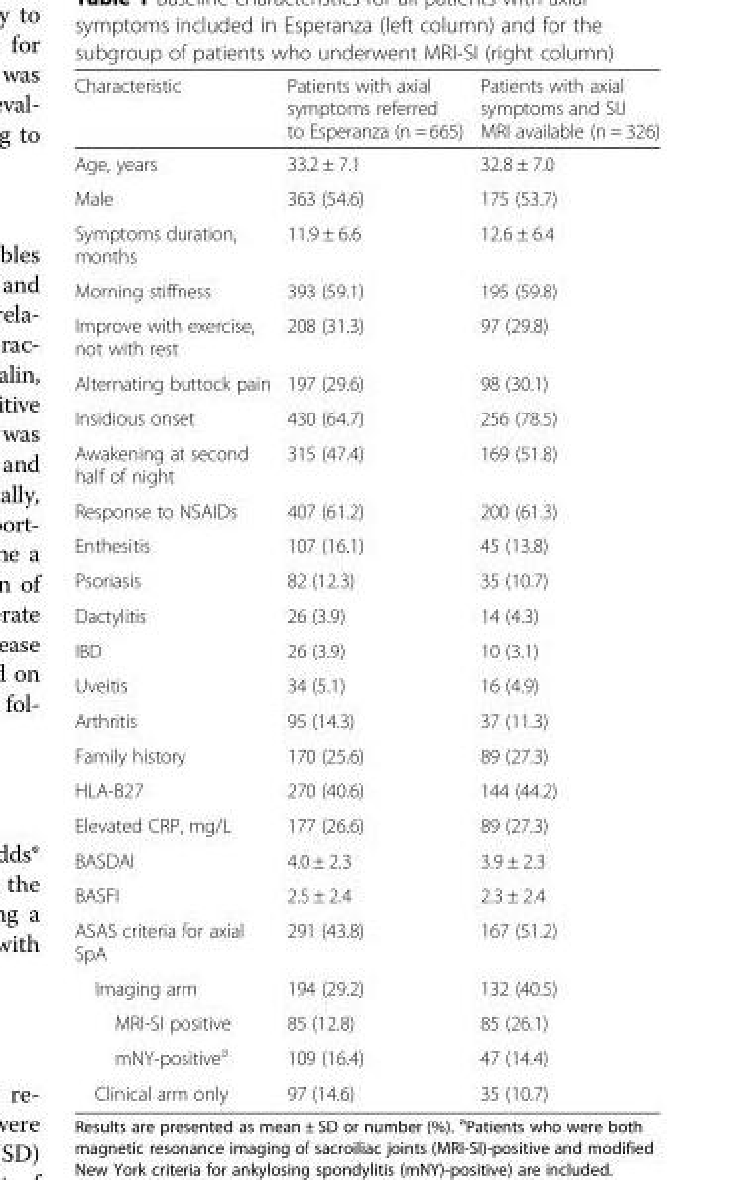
<table><thead><tr><td>Characteristic</td><td>Patients with axial symptoms referred to Esperanza (n = 665)</td><td>Patients with axial symptoms and SIJ MRI available (n = 326)</td></tr></thead><tbody><tr><td>Age, years</td><td>33.2 ± 7.1</td><td>32.8 ± 7.0</td></tr><tr><td>Male</td><td>363 (54.6)</td><td>175 (53.7)</td></tr><tr><td>Symptoms duration, months</td><td>11.9 ± 6.6</td><td>12.6 ± 6.4</td></tr><tr><td>Morning stiffness</td><td>393 (59.1)</td><td>195 (59.8)</td></tr><tr><td>Improve with exercise, not with rest</td><td>208 (31.3)</td><td>97 (29.8)</td></tr><tr><td>Alternating buttock pain</td><td>197 (29.6)</td><td>98 (30.1)</td></tr><tr><td>Insidious onset</td><td>430 (64.7)</td><td>256 (78.5)</td></tr><tr><td>Awakening at second half of night</td><td>315 (47.4)</td><td>169 (51.8)</td></tr><tr><td>Response to NSAIDs</td><td>407 (61.2)</td><td>200 (61.3)</td></tr><tr><td>Enthesitis</td><td>107 (16.1)</td><td>45 (13.8)</td></tr><tr><td>Psoriasis</td><td>82 (12.3)</td><td>35 (10.7)</td></tr><tr><td>Dactylitis</td><td>26 (3.9)</td><td>14 (4.3)</td></tr><tr><td>IBD</td><td>26 (3.9)</td><td>10 (3.1)</td></tr><tr><td>Uveitis</td><td>34 (5.1)</td><td>16 (4.9)</td></tr><tr><td>Arthritis</td><td>95 (14.3)</td><td>37 (11.3)</td></tr><tr><td>Family history</td><td>170 (25.6)</td><td>89 (27.3)</td></tr><tr><td>HLA-B27</td><td>270 (40.6)</td><td>144 (44.2)</td></tr><tr><td>Elevated CRP, mg/L</td><td>177 (26.6)</td><td>89 (27.3)</td></tr><tr><td>BASDAI</td><td>4.0 ± 2.3</td><td>3.9 ± 2.3</td></tr><tr><td>BASFI</td><td>2.5 ± 2.4</td><td>2.3 ± 2.4</td></tr><tr><td>ASAS criteria for axial SpA</td><td>291 (43.8)</td><td>167 (51.2)</td></tr><tr><td>Imaging arm</td><td>194 (29.2)</td><td>132 (40.5)</td></tr><tr><td>MRI-SI positive</td><td>85 (12.8)</td><td>85 (26.1)</td></tr><tr><td>mNY-positive<sup>a</sup></td><td>109 (16.4)</td><td>47 (14.4)</td></tr><tr><td>Clinical arm only</td><td>97 (14.6)</td><td>35 (10.7)</td></tr></tbody></table>